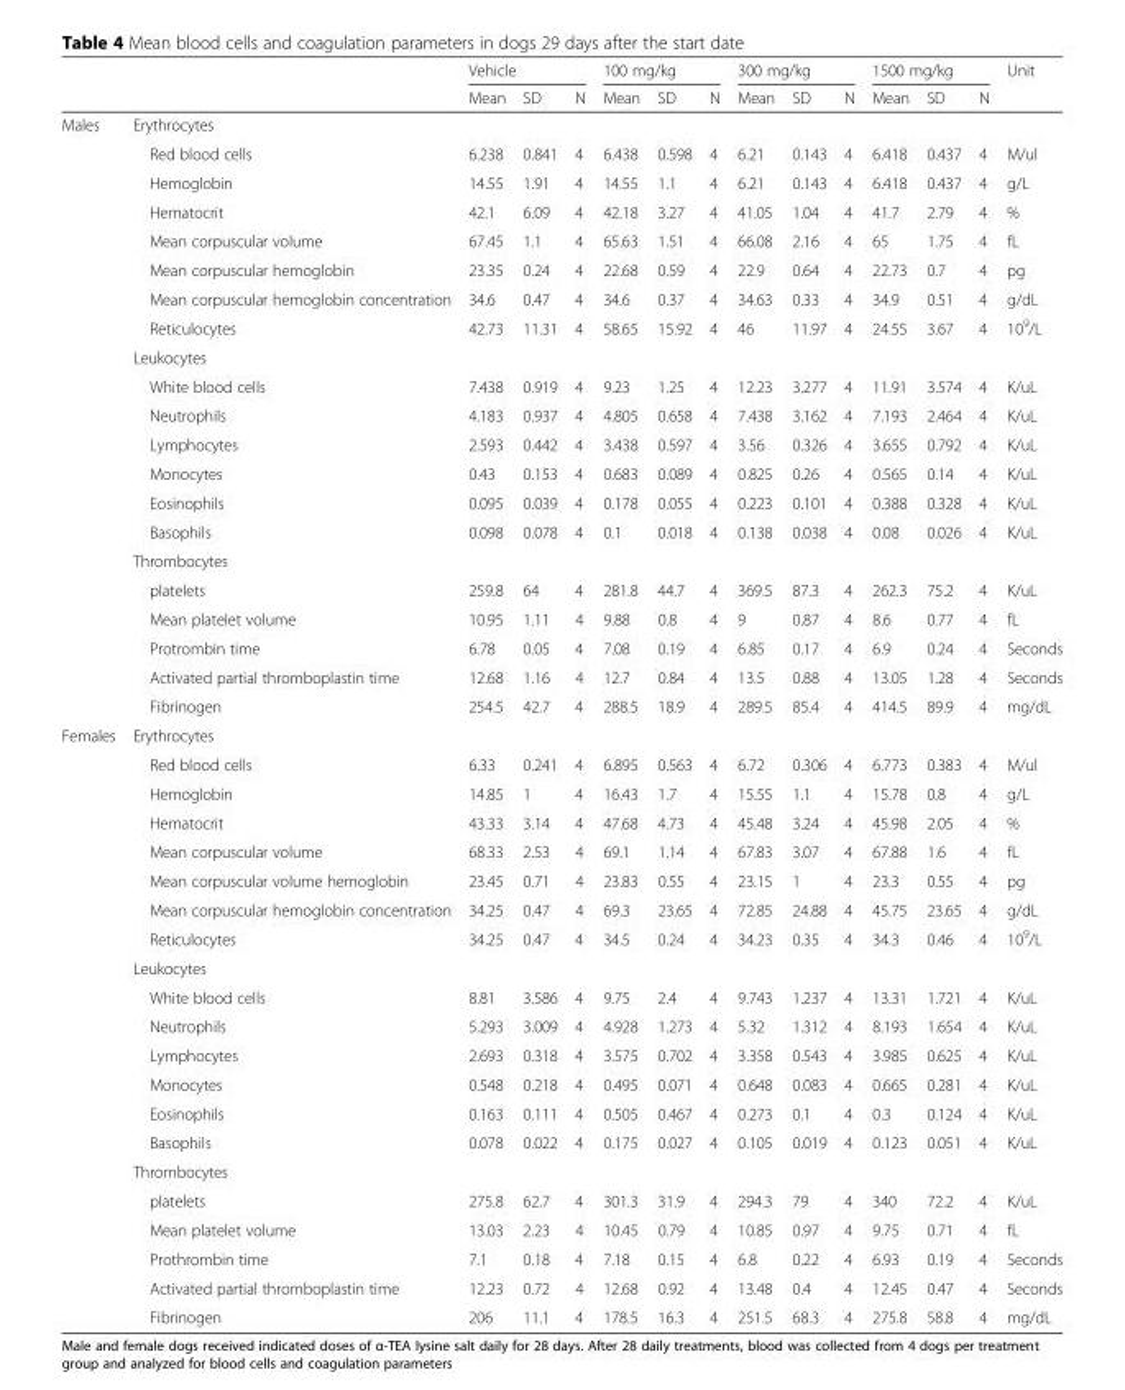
<table><thead><tr><td rowspan="2"></td><td rowspan="2"></td><td colspan="3">Vehicle</td><td colspan="3">100 mg/kg</td><td colspan="3">300 mg/kg</td><td colspan="3">1500 mg/kg</td><td rowspan="2">Unit</td></tr><tr><td>Mean</td><td>SD</td><td>N</td><td>Mean</td><td>SD</td><td>N</td><td>Mean</td><td>SD</td><td>N</td><td>Mean</td><td>SD</td><td>N</td></tr></thead><tbody><tr><td rowspan="21">Males</td><td>Erythrocytes</td><td></td><td></td><td></td><td></td><td></td><td></td><td></td><td></td><td></td><td></td><td></td><td></td><td></td></tr><tr><td>Red blood cells</td><td>6.238</td><td>0.841</td><td>4</td><td>6.438</td><td>0.598</td><td>4</td><td>6.21</td><td>0.143</td><td>4</td><td>6.418</td><td>0.437</td><td>4</td><td>M/ul</td></tr><tr><td>Hemoglobin</td><td>14.55</td><td>1.91</td><td>4</td><td>14.55</td><td>1.1</td><td>4</td><td>6.21</td><td>0.143</td><td>4</td><td>6.418</td><td>0.437</td><td>4</td><td>g/L</td></tr><tr><td>Hematocrit</td><td>42.1</td><td>6.09</td><td>4</td><td>42.18</td><td>3.27</td><td>4</td><td>41.05</td><td>1.04</td><td>4</td><td>41.7</td><td>2.79</td><td>4</td><td>%</td></tr><tr><td>Mean corpuscular volume</td><td>67.45</td><td>1.1</td><td>4</td><td>65.63</td><td>1.51</td><td>4</td><td>66.08</td><td>2.16</td><td>4</td><td>65</td><td>1.75</td><td>4</td><td>fL</td></tr><tr><td>Mean corpuscular hemoglobin</td><td>23.35</td><td>0.24</td><td>4</td><td>22.68</td><td>0.59</td><td>4</td><td>22.9</td><td>0.64</td><td>4</td><td>22.73</td><td>0.7</td><td>4</td><td>pg</td></tr><tr><td>Mean corpuscular hemoglobin concentration</td><td>34.6</td><td>0.47</td><td>4</td><td>34.6</td><td>0.37</td><td>4</td><td>34.63</td><td>0.33</td><td>4</td><td>34.9</td><td>0.51</td><td>4</td><td>g/dL</td></tr><tr><td>Reticulocytes</td><td>42.73</td><td>11.31</td><td>4</td><td>58.65</td><td>15.92</td><td>4</td><td>46</td><td>11.97</td><td>4</td><td>24.55</td><td>3.67</td><td>4</td><td>10<sup>9</sup>/L</td></tr><tr><td>Leukocytes</td><td></td><td></td><td></td><td></td><td></td><td></td><td></td><td></td><td></td><td></td><td></td><td></td><td></td></tr><tr><td>White blood cells</td><td>7.438</td><td>0.919</td><td>4</td><td>9.23</td><td>1.25</td><td>4</td><td>12.23</td><td>3.277</td><td>4</td><td>11.91</td><td>3.574</td><td>4</td><td>K/uL</td></tr><tr><td>Neutrophils</td><td>4.183</td><td>0.937</td><td>4</td><td>4.805</td><td>0.658</td><td>4</td><td>7.438</td><td>3.162</td><td>4</td><td>7.193</td><td>2.464</td><td>4</td><td>K/uL</td></tr><tr><td>Lymphocytes</td><td>2.593</td><td>0.442</td><td>4</td><td>3.438</td><td>0.597</td><td>4</td><td>3.56</td><td>0.326</td><td>4</td><td>3.655</td><td>0.792</td><td>4</td><td>K/uL</td></tr><tr><td>Monocytes</td><td>0.43</td><td>0.153</td><td>4</td><td>0.683</td><td>0.089</td><td>4</td><td>0.825</td><td>0.26</td><td>4</td><td>0.565</td><td>0.14</td><td>4</td><td>K/uL</td></tr><tr><td>Eosinophils</td><td>0.095</td><td>0.039</td><td>4</td><td>0.178</td><td>0.055</td><td>4</td><td>0.223</td><td>0.101</td><td>4</td><td>0.388</td><td>0.328</td><td>4</td><td>K/uL</td></tr><tr><td>Basophils</td><td>0.098</td><td>0.078</td><td>4</td><td>0.1</td><td>0.018</td><td>4</td><td>0.138</td><td>0.038</td><td>4</td><td>0.08</td><td>0.026</td><td>4</td><td>K/uL</td></tr><tr><td>Thrombocytes</td><td></td><td></td><td></td><td></td><td></td><td></td><td></td><td></td><td></td><td></td><td></td><td></td><td></td></tr><tr><td>platelets</td><td>259.8</td><td>64</td><td>4</td><td>281.8</td><td>44.7</td><td>4</td><td>369.5</td><td>87.3</td><td>4</td><td>262.3</td><td>75.2</td><td>4</td><td>K/uL</td></tr><tr><td>Mean platelet volume</td><td>10.95</td><td>1.11</td><td>4</td><td>9.88</td><td>0.8</td><td>4</td><td>9</td><td>0.87</td><td>4</td><td>8.6</td><td>0.77</td><td>4</td><td>fL</td></tr><tr><td>Protrombin time</td><td>6.78</td><td>0.05</td><td>4</td><td>7.08</td><td>0.19</td><td>4</td><td>6.85</td><td>0.17</td><td>4</td><td>6.9</td><td>0.24</td><td>4</td><td>Seconds</td></tr><tr><td>Activated partial thromboplastin time</td><td>12.68</td><td>1.16</td><td>4</td><td>12.7</td><td>0.84</td><td>4</td><td>13.5</td><td>0.88</td><td>4</td><td>13.05</td><td>1.28</td><td>4</td><td>Seconds</td></tr><tr><td>Fibrinogen</td><td>254.5</td><td>42.7</td><td>4</td><td>288.5</td><td>18.9</td><td>4</td><td>289.5</td><td>85.4</td><td>4</td><td>414.5</td><td>89.9</td><td>4</td><td>mg/dL</td></tr><tr><td rowspan="21">Females</td><td>Erythrocytes</td><td></td><td></td><td></td><td></td><td></td><td></td><td></td><td></td><td></td><td></td><td></td><td></td><td></td></tr><tr><td>Red blood cells</td><td>6.33</td><td>0.241</td><td>4</td><td>6.895</td><td>0.563</td><td>4</td><td>6.72</td><td>0.306</td><td>4</td><td>6.773</td><td>0.383</td><td>4</td><td>M/ul</td></tr><tr><td>Hemoglobin</td><td>14.85</td><td>1</td><td>4</td><td>16.43</td><td>1.7</td><td>4</td><td>15.55</td><td>1.1</td><td>4</td><td>15.78</td><td>0.8</td><td>4</td><td>g/L</td></tr><tr><td>Hematocrit</td><td>43.33</td><td>3.14</td><td>4</td><td>47.68</td><td>4.73</td><td>4</td><td>45.48</td><td>3.24</td><td>4</td><td>45.98</td><td>2.05</td><td>4</td><td>%</td></tr><tr><td>Mean corpuscular volume</td><td>68.33</td><td>2.53</td><td>4</td><td>69.1</td><td>1.14</td><td>4</td><td>67.83</td><td>3.07</td><td>4</td><td>67.88</td><td>1.6</td><td>4</td><td>fL</td></tr><tr><td>Mean corpuscular volume hemoglobin</td><td>23.45</td><td>0.71</td><td>4</td><td>23.83</td><td>0.55</td><td>4</td><td>23.15</td><td>1</td><td>4</td><td>23.3</td><td>0.55</td><td>4</td><td>pg</td></tr><tr><td>Mean corpuscular hemoglobin concentration</td><td>34.25</td><td>0.47</td><td>4</td><td>69.3</td><td>23.65</td><td>4</td><td>72.85</td><td>24.88</td><td>4</td><td>45.75</td><td>23.65</td><td>4</td><td>g/dL</td></tr><tr><td>Reticulocytes</td><td>34.25</td><td>0.47</td><td>4</td><td>34.5</td><td>0.24</td><td>4</td><td>34.23</td><td>0.35</td><td>4</td><td>34.3</td><td>0.46</td><td>4</td><td>10<sup>9</sup>/L</td></tr><tr><td>Leukocytes</td><td></td><td></td><td></td><td></td><td></td><td></td><td></td><td></td><td></td><td></td><td></td><td></td><td></td></tr><tr><td>White blood cells</td><td>8.81</td><td>3.586</td><td>4</td><td>9.75</td><td>2.4</td><td>4</td><td>9.743</td><td>1.237</td><td>4</td><td>13.31</td><td>1.721</td><td>4</td><td>K/uL</td></tr><tr><td>Neutrophils</td><td>5.293</td><td>3.009</td><td>4</td><td>4.928</td><td>1.273</td><td>4</td><td>5.32</td><td>1.312</td><td>4</td><td>8.193</td><td>1.654</td><td>4</td><td>K/uL</td></tr><tr><td>Lymphocytes</td><td>2.693</td><td>0.318</td><td>4</td><td>3.575</td><td>0.702</td><td>4</td><td>3.358</td><td>0.543</td><td>4</td><td>3.985</td><td>0.625</td><td>4</td><td>K/uL</td></tr><tr><td>Monocytes</td><td>0.548</td><td>0.218</td><td>4</td><td>0.495</td><td>0.071</td><td>4</td><td>0.648</td><td>0.083</td><td>4</td><td>0.665</td><td>0.281</td><td>4</td><td>K/uL</td></tr><tr><td>Eosinophils</td><td>0.163</td><td>0.111</td><td>4</td><td>0.505</td><td>0.467</td><td>4</td><td>0.273</td><td>0.1</td><td>4</td><td>0.3</td><td>0.124</td><td>4</td><td>K/uL</td></tr><tr><td>Basophils</td><td>0.078</td><td>0.022</td><td>4</td><td>0.175</td><td>0.027</td><td>4</td><td>0.105</td><td>0.019</td><td>4</td><td>0.123</td><td>0.051</td><td>4</td><td>K/uL</td></tr><tr><td>Thrombocytes</td><td></td><td></td><td></td><td></td><td></td><td></td><td></td><td></td><td></td><td></td><td></td><td></td><td></td></tr><tr><td>platelets</td><td>275.8</td><td>62.7</td><td>4</td><td>301.3</td><td>31.9</td><td>4</td><td>294.3</td><td>79</td><td>4</td><td>340</td><td>72.2</td><td>4</td><td>K/uL</td></tr><tr><td>Mean platelet volume</td><td>13.03</td><td>2.23</td><td>4</td><td>10.45</td><td>0.79</td><td>4</td><td>10.85</td><td>0.97</td><td>4</td><td>9.75</td><td>0.71</td><td>4</td><td>fL</td></tr><tr><td>Prothrombin time</td><td>7.1</td><td>0.18</td><td>4</td><td>7.18</td><td>0.15</td><td>4</td><td>6.8</td><td>0.22</td><td>4</td><td>6.93</td><td>0.19</td><td>4</td><td>Seconds</td></tr><tr><td>Activated partial thromboplastin time</td><td>12.23</td><td>0.72</td><td>4</td><td>12.68</td><td>0.92</td><td>4</td><td>13.48</td><td>0.4</td><td>4</td><td>12.45</td><td>0.47</td><td>4</td><td>Seconds</td></tr><tr><td>Fibrinogen</td><td>206</td><td>11.1</td><td>4</td><td>178.5</td><td>16.3</td><td>4</td><td>251.5</td><td>68.3</td><td>4</td><td>275.8</td><td>58.8</td><td>4</td><td>mg/dL</td></tr></tbody></table>